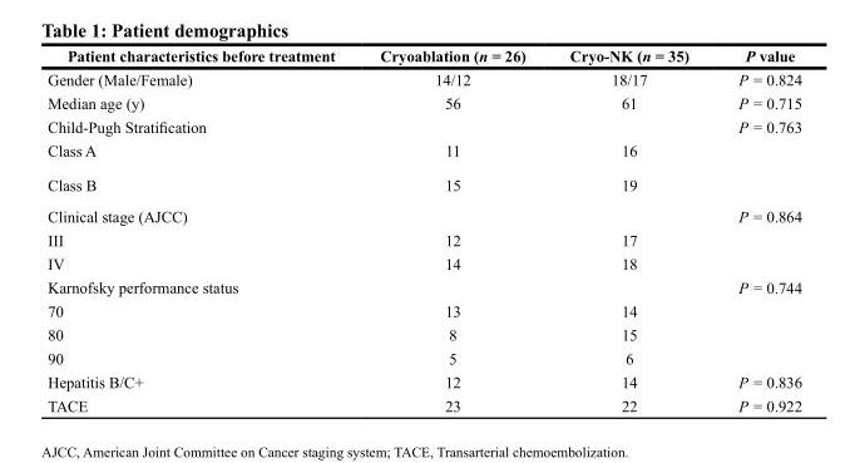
<table><thead><tr><td>Patient characteristics before treatment</td><td>Cryoablation (n = 26)</td><td>Cryo-NK (n = 35)</td><td>P value</td></tr></thead><tbody><tr><td>Gender (Male/Female)</td><td>14/12</td><td>18/17</td><td>P = 0.824</td></tr><tr><td>Median age (y)</td><td>56</td><td>61</td><td>P = 0.715</td></tr><tr><td>Child-Pugh Stratification</td><td></td><td></td><td>P = 0.763</td></tr><tr><td>Class A</td><td>11</td><td>16</td><td></td></tr><tr><td>Class B</td><td>15</td><td>19</td><td></td></tr><tr><td>Clinical stage (AJCC)</td><td></td><td></td><td>P = 0.864</td></tr><tr><td>III</td><td>12</td><td>17</td><td></td></tr><tr><td>IV</td><td>14</td><td>18</td><td></td></tr><tr><td>Karnofsky performance status</td><td></td><td></td><td>P = 0.744</td></tr><tr><td>70</td><td>13</td><td>14</td><td></td></tr><tr><td>80</td><td>8</td><td>15</td><td></td></tr><tr><td>90</td><td>5</td><td>6</td><td></td></tr><tr><td>Hepatitis B/C+</td><td>12</td><td>14</td><td>P = 0.836</td></tr><tr><td>TACE</td><td>23</td><td>22</td><td>P = 0.922</td></tr></tbody></table>